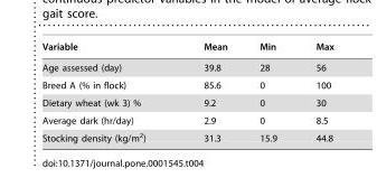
<table><thead><tr><td>Variable</td><td>Mean</td><td>Min</td><td>Max</td></tr></thead><tbody><tr><td>Age assessed (day)</td><td>39.8</td><td>28</td><td>56</td></tr><tr><td>Breed A (% in flock)</td><td>85.6</td><td>0</td><td>100</td></tr><tr><td>Dietary wheat (wk 3) %</td><td>9.2</td><td>0</td><td>30</td></tr><tr><td>Average dark (hr/day)</td><td>2.9</td><td>0</td><td>8.5</td></tr><tr><td>Stocking density (kg/m<sup>2</sup>)</td><td>31.3</td><td>15.9</td><td>44.8</td></tr></tbody></table>